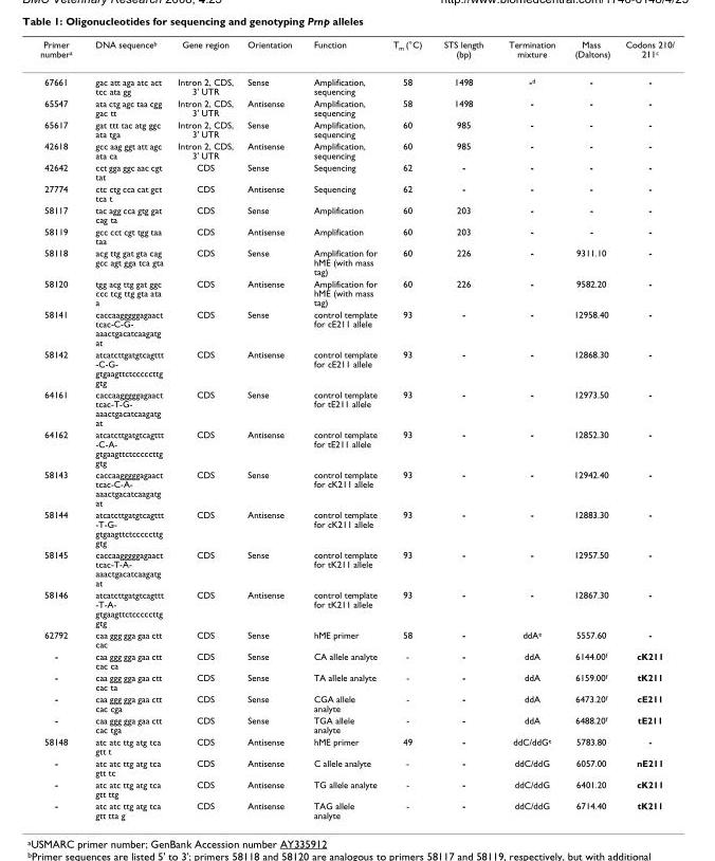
<table><thead><tr><td>Primer number<sup>a</sup></td><td>DNA sequence<sup>b</sup></td><td>Gene region</td><td>Orientation</td><td>Function</td><td>T<sub>m</sub> (°C)</td><td>STS length (bp)</td><td>Termination mixture</td><td>Mass (Daltons)</td><td>Codons 210/ 211<sup>c</sup></td></tr></thead><tbody><tr><td>67661</td><td>gac att aga atc act tcc ata gg</td><td>Intron 2, CDS, 3&#x27; UTR</td><td>Sense</td><td>Amplification, sequencing</td><td>58</td><td>1498</td><td>-<sup>d</sup></td><td>-</td><td>-</td></tr><tr><td>65547</td><td>ata ctg agc taa cgg gac tt</td><td>Intron 2, CDS, 3&#x27; UTR</td><td>Antisense</td><td>Amplification, sequencing</td><td>58</td><td>1498</td><td>-</td><td>-</td><td>-</td></tr><tr><td>65617</td><td>gat ttt tac atg ggc ata tga</td><td>Intron 2, CDS, 3&#x27; UTR</td><td>Sense</td><td>Amplification, sequencing</td><td>60</td><td>985</td><td>-</td><td>-</td><td>-</td></tr><tr><td>42618</td><td>gcc aag ggt att agc ata ca</td><td>Intron 2, CDS, 3&#x27; UTR</td><td>Antisense</td><td>Amplification, sequencing</td><td>60</td><td>985</td><td>-</td><td>-</td><td>-</td></tr><tr><td>42642</td><td>cct gga ggc aac cgt tat</td><td>CDS</td><td>Sense</td><td>Sequencing</td><td>62</td><td>-</td><td>-</td><td>-</td><td>-</td></tr><tr><td>27774</td><td>ctc ctg cca cat gct tca t</td><td>CDS</td><td>Antisense</td><td>Sequencing</td><td>62</td><td>-</td><td>-</td><td>-</td><td>-</td></tr><tr><td>58117</td><td>tac agg cca gtg gat cag ta</td><td>CDS</td><td>Sense</td><td>Amplification</td><td>60</td><td>203</td><td>-</td><td>-</td><td>-</td></tr><tr><td>58119</td><td>gcc cct cgt tgg taa taa</td><td>CDS</td><td>Antisense</td><td>Amplification</td><td>60</td><td>203</td><td>-</td><td>-</td><td>-</td></tr><tr><td>58118</td><td>acg ttg gat gta cag gcc agt gga tca gta</td><td>CDS</td><td>Sense</td><td>Amplification for hME (with mass tag)</td><td>60</td><td>226</td><td>-</td><td>9311.10</td><td>-</td></tr><tr><td>58120</td><td>tgg acg ttg gat ggc ccc tcg ttg gta ata a</td><td>CDS</td><td>Antisense</td><td>Amplification for hME (with mass tag)</td><td>60</td><td>226</td><td>-</td><td>9582.20</td><td>-</td></tr><tr><td>58141</td><td>caccaagggggagaact tcac-C-G- aaactgacatcaagatg at</td><td>CDS</td><td>Sense</td><td>control template for cE211 allele</td><td>93</td><td>-</td><td>-</td><td>12958.40</td><td>-</td></tr><tr><td>58142</td><td>atcatcttgatgtcagttt -C-G- gtgaagttctcccccttg gtg</td><td>CDS</td><td>Antisense</td><td>control template for cE211 allele</td><td>93</td><td>-</td><td>-</td><td>12868.30</td><td>-</td></tr><tr><td>64161</td><td>caccaagggggagaact tcac-T-G- aaactgacatcaagatg at</td><td>CDS</td><td>Sense</td><td>control template for tE211 allele</td><td>93</td><td>-</td><td>-</td><td>12973.50</td><td>-</td></tr><tr><td>64162</td><td>atcatcttgatgtcagttt -C-A- gtgaagttctcccccttg gtg</td><td>CDS</td><td>Antisense</td><td>control template for tE211 allele</td><td>93</td><td>-</td><td>-</td><td>12852.30</td><td>-</td></tr><tr><td>58143</td><td>caccaagggggagaact tcac-C-A- aaactgacatcaagatg at</td><td>CDS</td><td>Sense</td><td>control template for cK211 allele</td><td>93</td><td>-</td><td>-</td><td>12942.40</td><td>-</td></tr><tr><td>58144</td><td>atcatcttgatgtcagttt -T-G- gtgaagttctcccccttg gtg</td><td>CDS</td><td>Antisense</td><td>control template for cK211 allele</td><td>93</td><td>-</td><td>-</td><td>12883.30</td><td>-</td></tr><tr><td>58145</td><td>caccaagggggagaact tcac-T-A- aaactgacatcaagatg at</td><td>CDS</td><td>Sense</td><td>control template for tK211 allele</td><td>93</td><td>-</td><td>-</td><td>12957.50</td><td>-</td></tr><tr><td>58146</td><td>atcatcttgatgtcagttt -T-A- gtgaagttctcccccttg gtg</td><td>CDS</td><td>Antisense</td><td>control template for tK211 allele</td><td>93</td><td>-</td><td>-</td><td>12867.30</td><td>-</td></tr><tr><td>62792</td><td>caa ggg gga gaa ctt cac</td><td>CDS</td><td>Sense</td><td>hME primer</td><td>58</td><td>-</td><td>ddA<sup>e</sup></td><td>5557.60</td><td>-</td></tr><tr><td>-</td><td>caa ggg gga gaa ctt cac ca</td><td>CDS</td><td>Sense</td><td>CA allele analyte</td><td>-</td><td>-</td><td>ddA</td><td>6144.00<sup>f</sup></td><td>cK211</td></tr><tr><td>-</td><td>caa ggg gga gaa ctt cac ta</td><td>CDS</td><td>Sense</td><td>TA allele analyte</td><td>-</td><td>-</td><td>ddA</td><td>6159.00<sup>f</sup></td><td>tK211</td></tr><tr><td>-</td><td>caa ggg gga gaa ctt cac cga</td><td>CDS</td><td>Sense</td><td>CGA allele analyte</td><td>-</td><td>-</td><td>ddA</td><td>6473.20<sup>f</sup></td><td>cE211</td></tr><tr><td>-</td><td>caa ggg gga gaa ctt cac tga</td><td>CDS</td><td>Sense</td><td>TGA allele analyte</td><td>-</td><td>-</td><td>ddA</td><td>6488.20<sup>f</sup></td><td>tE211</td></tr><tr><td>58148</td><td>atc atc ttg atg tca gtt t</td><td>CDS</td><td>Antisense</td><td>hME primer</td><td>49</td><td>-</td><td>ddC/ddG<sup>e</sup></td><td>5783.80</td><td>-</td></tr><tr><td>-</td><td>atc atc ttg atg tca gtt tc</td><td>CDS</td><td>Antisense</td><td>C allele analyte</td><td>-</td><td>-</td><td>ddC/ddG</td><td>6057.00</td><td>nE211</td></tr><tr><td>-</td><td>atc atc ttg atg tca gtt ttg</td><td>CDS</td><td>Antisense</td><td>TG allele analyte</td><td>-</td><td>-</td><td>ddC/ddG</td><td>6401.20</td><td>cK211</td></tr><tr><td>-</td><td>atc atc ttg atg tca gtt tta g</td><td>CDS</td><td>Antisense</td><td>TAG allele analyte</td><td>-</td><td>-</td><td>ddC/ddG</td><td>6714.40</td><td>tK211</td></tr></tbody></table>